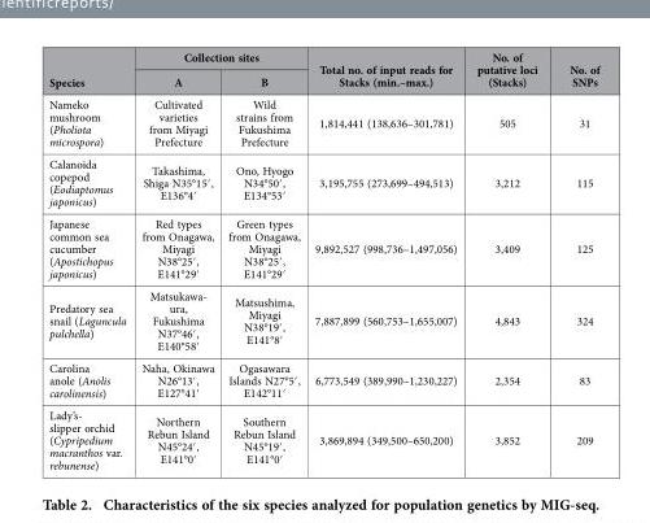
<table><thead><tr><td rowspan="2">Species</td><td colspan="2">Collection sites</td><td rowspan="2">Total no. of input reads for Stacks (min.–max.)</td><td rowspan="2">No. of putative loci (Stacks)</td><td rowspan="2">No. of SNPs</td></tr><tr><td>A</td><td>B</td></tr></thead><tbody><tr><td>Nameko mushroom (Pholiota microspora)</td><td>Cultivated varieties from Miyagi Prefecture</td><td>Wild strains from Fukushima Prefecture</td><td>1,814,441 (138,636–301,781)</td><td>505</td><td>31</td></tr><tr><td>Calanoida copepod (Eodiaptomus japonicus)</td><td>Takashima, Shiga N35°15′ , E136°4′</td><td>Ono, Hyogo N34°50′ , E134°53′</td><td>3,195,755 (273,699–494,513)</td><td>3,212</td><td>115</td></tr><tr><td>Japanese common sea cucumber (Apostichopus japonicus)</td><td>Red types from Onagawa, Miyagi N38°25′ , E141°29′</td><td>Green types from Onagawa, Miyagi N38°25′ , E141°29′</td><td>9,892,527 (998,736–1,497,056)</td><td>3,409</td><td>125</td></tr><tr><td>Predatory sea snail (Laguncula pulchella)</td><td>Matsukawa- ura, Fukushima N37°46′ , E140°58′</td><td>Matsushima, Miyagi N38°19′ , E141°8′</td><td>7,887,899 (560,753–1,655,007)</td><td>4,843</td><td>324</td></tr><tr><td>Carolina anole (Anolis carolinensis)</td><td>Naha, Okinawa N26°13′ , E127°41′</td><td>Ogasawara Islands N27°5′ , E142°11′</td><td>6,773,549 (389,990–1,230,227)</td><td>2,354</td><td>83</td></tr><tr><td>Lady’s- slipper orchid (Cypripedium macranthos var. rebunense)</td><td>Northern Rebun Island N45°24′ , E141°0′</td><td>Southern Rebun Island N45°19′ , E141°0′</td><td>3,869,894 (349,500–650,200)</td><td>3,852</td><td>209</td></tr></tbody></table>